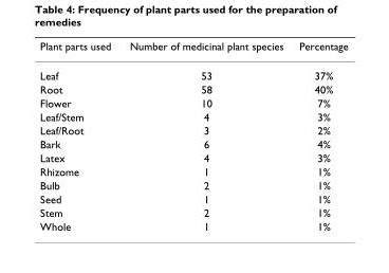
<table><thead><tr><td>Plant parts used</td><td>Number of medicinal plant species</td><td>Percentage</td></tr></thead><tbody><tr><td>Leaf</td><td>53</td><td>37%</td></tr><tr><td>Root</td><td>58</td><td>40%</td></tr><tr><td>Flower</td><td>10</td><td>7%</td></tr><tr><td>Leaf/Stem</td><td>4</td><td>3%</td></tr><tr><td>Leaf/Root</td><td>3</td><td>2%</td></tr><tr><td>Bark</td><td>6</td><td>4%</td></tr><tr><td>Latex</td><td>4</td><td>3%</td></tr><tr><td>Rhizome</td><td>1</td><td>1%</td></tr><tr><td>Bulb</td><td>2</td><td>1%</td></tr><tr><td>Seed</td><td>1</td><td>1%</td></tr><tr><td>Stem</td><td>2</td><td>1%</td></tr><tr><td>Whole</td><td>1</td><td>1%</td></tr></tbody></table>